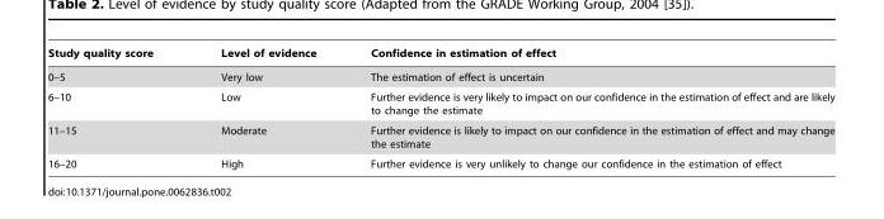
<table><thead><tr><td>Study quality score</td><td>Level of evidence</td><td>Confidence in estimation of effect</td></tr></thead><tbody><tr><td>0–5</td><td>Very low</td><td>The estimation of effect is uncertain</td></tr><tr><td>6–10</td><td>Low</td><td>Further evidence is very likely to impact on our confidence in the estimation of effect and are likely to change the estimate</td></tr><tr><td>11–15</td><td>Moderate</td><td>Further evidence is likely to impact on our confidence in the estimation of effect and may change the estimate</td></tr><tr><td>16–20</td><td>High</td><td>Further evidence is very unlikely to change our confidence in the estimation of effect</td></tr></tbody></table>